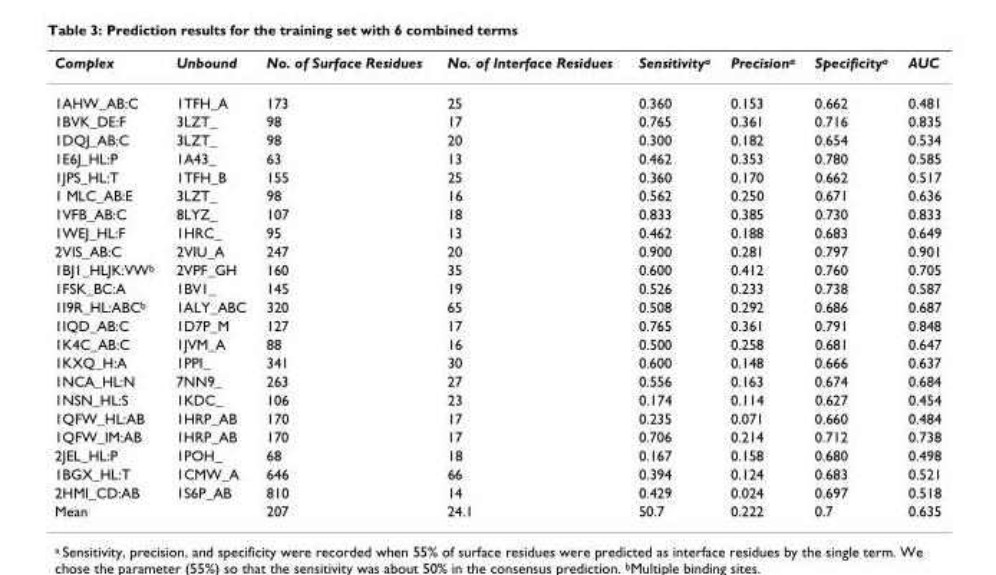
<table><thead><tr><td>Complex</td><td>Unbound</td><td>No. of Surface Residues</td><td>No. of Interface Residues</td><td>Sensitivity<sup>a</sup></td><td>Precision<sup>a</sup></td><td>Specificity<sup>a</sup></td><td>AUC</td></tr></thead><tbody><tr><td>1AHW_AB:C</td><td>1TFH_A</td><td>173</td><td>25</td><td>0.360</td><td>0.153</td><td>0.662</td><td>0.481</td></tr><tr><td>1BVK_DE:F</td><td>3LZT_</td><td>98</td><td>17</td><td>0.765</td><td>0.361</td><td>0.716</td><td>0.835</td></tr><tr><td>1DQJ_AB:C</td><td>3LZT_</td><td>98</td><td>20</td><td>0.300</td><td>0.182</td><td>0.654</td><td>0.534</td></tr><tr><td>1E6J_HL:P</td><td>1A43_</td><td>63</td><td>13</td><td>0.462</td><td>0.353</td><td>0.780</td><td>0.585</td></tr><tr><td>1JPS_HL:T</td><td>1TFH_B</td><td>155</td><td>25</td><td>0.360</td><td>0.170</td><td>0.662</td><td>0.517</td></tr><tr><td>1 MLC_AB:E</td><td>3LZT_</td><td>98</td><td>16</td><td>0.562</td><td>0.250</td><td>0.671</td><td>0.636</td></tr><tr><td>1VFB_AB:C</td><td>8LYZ_</td><td>107</td><td>18</td><td>0.833</td><td>0.385</td><td>0.730</td><td>0.833</td></tr><tr><td>1WEJ_HL:F</td><td>1HRC_</td><td>95</td><td>13</td><td>0.462</td><td>0.188</td><td>0.683</td><td>0.649</td></tr><tr><td>2VIS_AB:C</td><td>2VIU_A</td><td>247</td><td>20</td><td>0.900</td><td>0.281</td><td>0.797</td><td>0.901</td></tr><tr><td>1BJ1_HLJK:VW<sup>b</sup></td><td>2VPF_GH</td><td>160</td><td>35</td><td>0.600</td><td>0.412</td><td>0.760</td><td>0.705</td></tr><tr><td>1FSK_BC:A</td><td>1BV1_</td><td>145</td><td>19</td><td>0.526</td><td>0.233</td><td>0.738</td><td>0.587</td></tr><tr><td>1I9R_HL:ABC<sup>b</sup></td><td>1ALY_ABC</td><td>320</td><td>65</td><td>0.508</td><td>0.292</td><td>0.686</td><td>0.687</td></tr><tr><td>1IQD_AB:C</td><td>1D7P_M</td><td>127</td><td>17</td><td>0.765</td><td>0.361</td><td>0.791</td><td>0.848</td></tr><tr><td>1K4C_AB:C</td><td>1JVM_A</td><td>88</td><td>16</td><td>0.500</td><td>0.258</td><td>0.681</td><td>0.647</td></tr><tr><td>1KXQ_H:A</td><td>1PPI_</td><td>341</td><td>30</td><td>0.600</td><td>0.148</td><td>0.666</td><td>0.637</td></tr><tr><td>1NCA_HL:N</td><td>7NN9_</td><td>263</td><td>27</td><td>0.556</td><td>0.163</td><td>0.674</td><td>0.684</td></tr><tr><td>1NSN_HL:S</td><td>1KDC_</td><td>106</td><td>23</td><td>0.174</td><td>0.114</td><td>0.627</td><td>0.454</td></tr><tr><td>1QFW_HL:AB</td><td>1HRP_AB</td><td>170</td><td>17</td><td>0.235</td><td>0.071</td><td>0.660</td><td>0.484</td></tr><tr><td>1QFW_IM:AB</td><td>1HRP_AB</td><td>170</td><td>17</td><td>0.706</td><td>0.214</td><td>0.712</td><td>0.738</td></tr><tr><td>2JEL_HL:P</td><td>1POH_</td><td>68</td><td>18</td><td>0.167</td><td>0.158</td><td>0.680</td><td>0.498</td></tr><tr><td>1BGX_HL:T</td><td>1CMW_A</td><td>646</td><td>66</td><td>0.394</td><td>0.124</td><td>0.683</td><td>0.521</td></tr><tr><td>2HMI_CD:AB</td><td>1S6P_AB</td><td>810</td><td>14</td><td>0.429</td><td>0.024</td><td>0.697</td><td>0.518</td></tr><tr><td>Mean</td><td></td><td>207</td><td>24.1</td><td>50.7</td><td>0.222</td><td>0.7</td><td>0.635</td></tr></tbody></table>